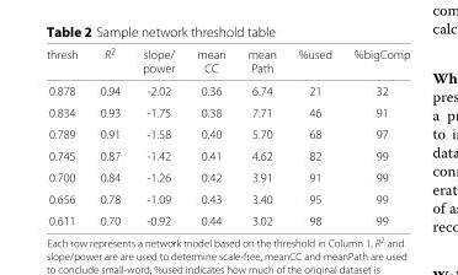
<table><thead><tr><td rowspan="2">thresh</td><td rowspan="2">R<sup>2</sup></td><td rowspan="2">slope/ power</td><td rowspan="2">mean CC</td><td rowspan="2">mean Path</td><td rowspan="2">%used</td><td rowspan="2">%bigComp</td></tr><tr></tr></thead><tbody><tr><td>0.878</td><td>0.94</td><td>-2.02</td><td>0.36</td><td>6.74</td><td>21</td><td>32</td></tr><tr><td>0.834</td><td>0.93</td><td>-1.75</td><td>0.38</td><td>7.71</td><td>46</td><td>91</td></tr><tr><td>0.789</td><td>0.91</td><td>-1.58</td><td>0.40</td><td>5.70</td><td>68</td><td>97</td></tr><tr><td>0.745</td><td>0.87</td><td>-1.42</td><td>0.41</td><td>4.62</td><td>82</td><td>99</td></tr><tr><td>0.700</td><td>0.84</td><td>-1.26</td><td>0.42</td><td>3.91</td><td>91</td><td>99</td></tr><tr><td>0.656</td><td>0.78</td><td>-1.09</td><td>0.43</td><td>3.40</td><td>95</td><td>99</td></tr><tr><td>0.611</td><td>0.70</td><td>-0.92</td><td>0.44</td><td>3.02</td><td>98</td><td>99</td></tr></tbody></table>